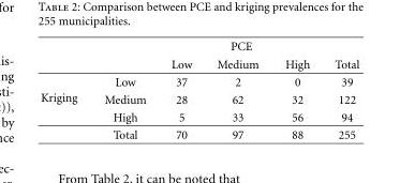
<table><thead><tr><td rowspan="2"></td><td rowspan="2"></td><td colspan="3">PCE</td><td rowspan="2">Total</td></tr><tr><td>Low</td><td>Medium</td><td>High</td></tr></thead><tbody><tr><td rowspan="4">Kriging</td><td>Low</td><td>37</td><td>2</td><td>0</td><td>39</td></tr><tr><td>Medium</td><td>28</td><td>62</td><td>32</td><td>122</td></tr><tr><td>High</td><td>5</td><td>33</td><td>56</td><td>94</td></tr><tr><td>Total</td><td>70</td><td>97</td><td>88</td><td>255</td></tr></tbody></table>